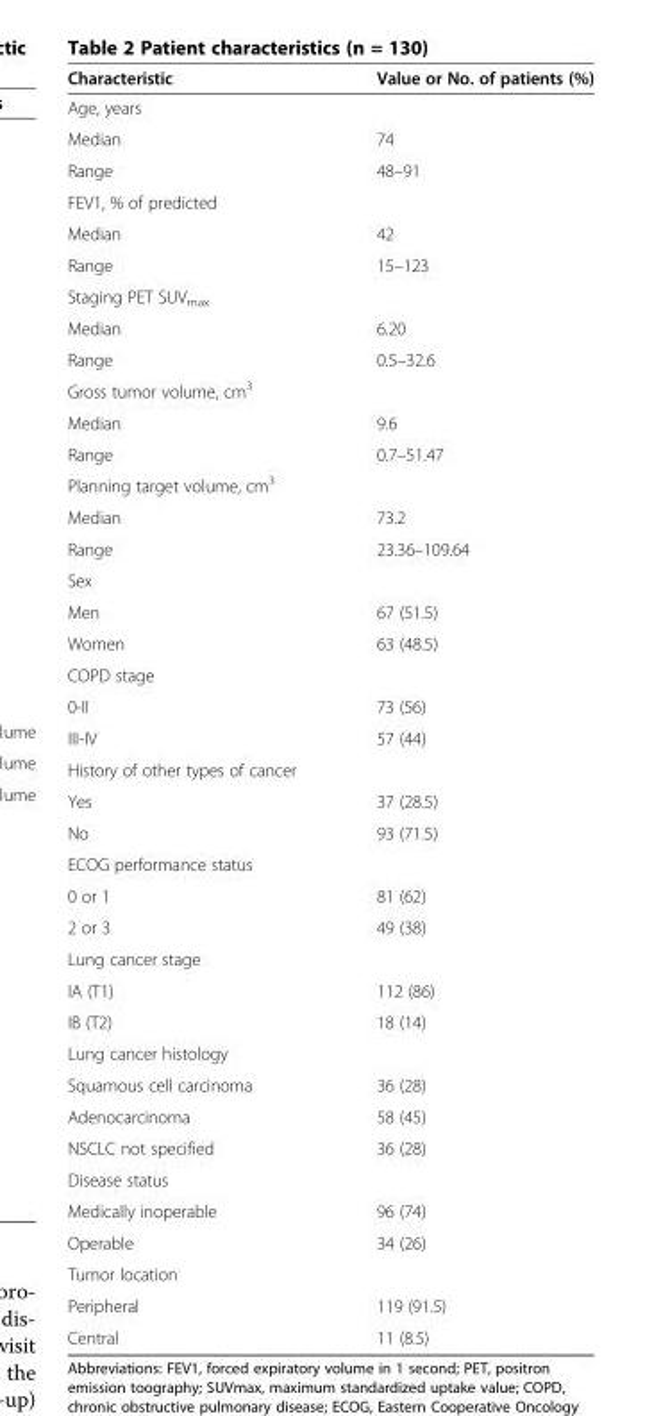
<table><thead><tr><td>Characteristic</td><td>Value or No. of patients (%)</td></tr></thead><tbody><tr><td colspan="2">Age, years</td></tr><tr><td>Median</td><td>74</td></tr><tr><td>Range</td><td>48–91</td></tr><tr><td colspan="2">FEV1, % of predicted</td></tr><tr><td>Median</td><td>42</td></tr><tr><td>Range</td><td>15–123</td></tr><tr><td colspan="2">Staging PET SUV<sub>max</sub></td></tr><tr><td>Median</td><td>6.20</td></tr><tr><td>Range</td><td>0.5–32.6</td></tr><tr><td colspan="2">Gross tumor volume, cm<sup>3</sup></td></tr><tr><td>Median</td><td>9.6</td></tr><tr><td>Range</td><td>0.7–51.47</td></tr><tr><td colspan="2">Planning target volume, cm<sup>3</sup></td></tr><tr><td>Median</td><td>73.2</td></tr><tr><td>Range</td><td>23.36–109.64</td></tr><tr><td colspan="2">Sex</td></tr><tr><td>Men</td><td>67 (51.5)</td></tr><tr><td>Women</td><td>63 (48.5)</td></tr><tr><td colspan="2">COPD stage</td></tr><tr><td>0-II</td><td>73 (56)</td></tr><tr><td>III-IV</td><td>57 (44)</td></tr><tr><td colspan="2">History of other types of cancer</td></tr><tr><td>Yes</td><td>37 (28.5)</td></tr><tr><td>No</td><td>93 (71.5)</td></tr><tr><td colspan="2">ECOG performance status</td></tr><tr><td>0 or 1</td><td>81 (62)</td></tr><tr><td>2 or 3</td><td>49 (38)</td></tr><tr><td colspan="2">Lung cancer stage</td></tr><tr><td>IA (T1)</td><td>112 (86)</td></tr><tr><td>IB (T2)</td><td>18 (14)</td></tr><tr><td colspan="2">Lung cancer histology</td></tr><tr><td>Squamous cell carcinoma</td><td>36 (28)</td></tr><tr><td>Adenocarcinoma</td><td>58 (45)</td></tr><tr><td>NSCLC not specified</td><td>36 (28)</td></tr><tr><td colspan="2">Disease status</td></tr><tr><td>Medically inoperable</td><td>96 (74)</td></tr><tr><td>Operable</td><td>34 (26)</td></tr><tr><td colspan="2">Tumor location</td></tr><tr><td>Peripheral</td><td>119 (91.5)</td></tr><tr><td>Central</td><td>11 (8.5)</td></tr></tbody></table>